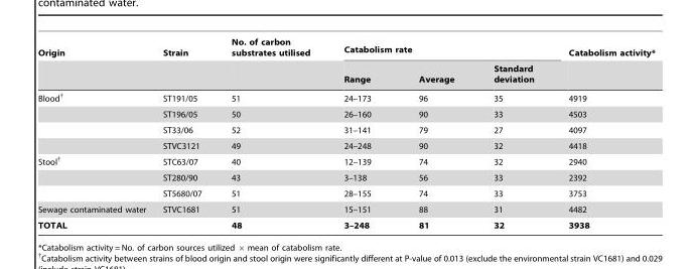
<table><thead><tr><td rowspan="2">Origin</td><td rowspan="2">Strain</td><td rowspan="2">No. of carbon substrates utilised</td><td colspan="3">Catabolism rate</td><td rowspan="2">Catabolism activity*</td></tr><tr><td>Range</td><td>Average</td><td>Standard deviation</td></tr></thead><tbody><tr><td rowspan="4">Blood†</td><td>ST191/05</td><td>51</td><td>24–173</td><td>96</td><td>35</td><td>4919</td></tr><tr><td>ST196/05</td><td>50</td><td>26–160</td><td>90</td><td>33</td><td>4503</td></tr><tr><td>ST33/06</td><td>52</td><td>31–141</td><td>79</td><td>27</td><td>4097</td></tr><tr><td>STVC3121</td><td>49</td><td>24–248</td><td>90</td><td>32</td><td>4418</td></tr><tr><td rowspan="3">Stool†</td><td>STC63/07</td><td>40</td><td>12–139</td><td>74</td><td>32</td><td>2940</td></tr><tr><td>ST280/90</td><td>43</td><td>3–138</td><td>56</td><td>33</td><td>2392</td></tr><tr><td>ST5680/07</td><td>51</td><td>28–155</td><td>74</td><td>33</td><td>3753</td></tr><tr><td>Sewage contaminated water</td><td>STVC1681</td><td>51</td><td>15–151</td><td>88</td><td>31</td><td>4482</td></tr><tr><td>TOTAL</td><td></td><td>48</td><td>3–248</td><td>81</td><td>32</td><td>3938</td></tr></tbody></table>